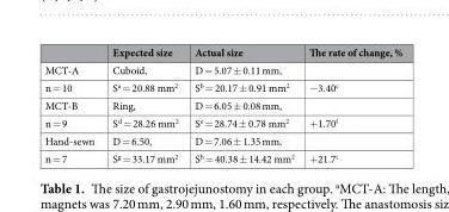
<table><thead><tr><td></td><td>Expected size</td><td>Actual size</td><td>The rate of change, %</td></tr></thead><tbody><tr><td>MCT-A</td><td>Cuboid,</td><td>D = 5.07 ± 0.11 mm,</td><td></td></tr><tr><td>n = 10</td><td>S<sup>a</sup> = 20.88 mm<sup>2</sup></td><td>S<sup>b</sup> = 20.17 ± 0.91 mm<sup>2</sup></td><td>−3.40<sup>c</sup></td></tr><tr><td>MCT-B</td><td>Ring,</td><td>D = 6.05 ± 0.08 mm,</td><td></td></tr><tr><td>n = 9</td><td>S<sup>d</sup> = 28.26 mm<sup>2</sup></td><td>S<sup>e</sup> = 28.74 ± 0.78 mm<sup>2</sup></td><td>+1.70<sup>f</sup></td></tr><tr><td>Hand-sewn</td><td>D = 6.50,</td><td>D = 7.06 ± 1.35 mm,</td><td></td></tr><tr><td>n = 7</td><td>S<sup>g</sup> = 33.17 mm<sup>2</sup></td><td>S<sup>h</sup> = 40.38 ± 14.42 mm<sup>2</sup></td><td>+21.7<sup>i</sup></td></tr></tbody></table>